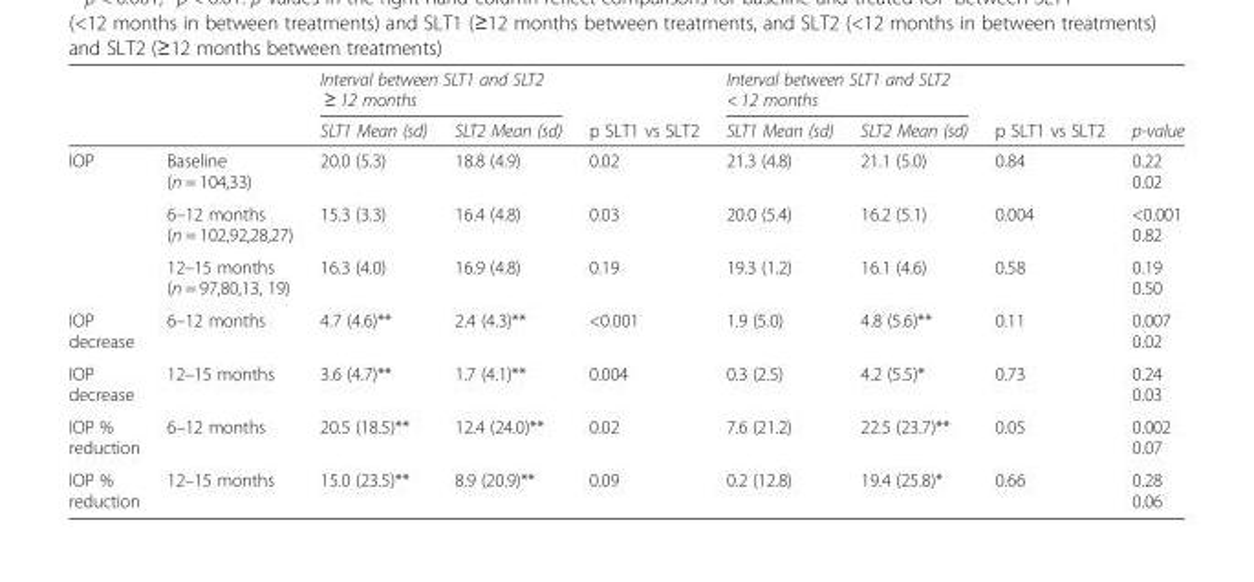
<table><thead><tr><td rowspan="2"></td><td rowspan="2"></td><td colspan="2">Interval between SLT1 and SLT2 ≥ 12 months</td><td rowspan="2">p SLT1 vs SLT2</td><td colspan="2">Interval between SLT1 and SLT2 &lt; 12 months</td><td rowspan="2">p SLT1 vs SLT2</td><td rowspan="2">p-value</td></tr><tr><td>SLT1 Mean (sd)</td><td>SLT2 Mean (sd)</td><td>SLT1 Mean (sd)</td><td>SLT2 Mean (sd)</td></tr></thead><tbody><tr><td rowspan="3">IOP</td><td>Baseline (n = 104,33)</td><td>20.0 (5.3)</td><td>18.8 (4.9)</td><td>0.02</td><td>21.3 (4.8)</td><td>21.1 (5.0)</td><td>0.84</td><td>0.22 0.02</td></tr><tr><td>6–12 months (n = 102,92,28,27)</td><td>15.3 (3.3)</td><td>16.4 (4.8)</td><td>0.03</td><td>20.0 (5.4)</td><td>16.2 (5.1)</td><td>0.004</td><td>&lt;0.001 0.82</td></tr><tr><td>12–15 months (n = 97,80,13, 19)</td><td>16.3 (4.0)</td><td>16.9 (4.8)</td><td>0.19</td><td>19.3 (1.2)</td><td>16.1 (4.6)</td><td>0.58</td><td>0.19 0.50</td></tr><tr><td>IOP decrease</td><td>6–12 months</td><td>4.7 (4.6)**</td><td>2.4 (4.3)**</td><td>&lt;0.001</td><td>1.9 (5.0)</td><td>4.8 (5.6)**</td><td>0.11</td><td>0.007 0.02</td></tr><tr><td>IOP decrease</td><td>12–15 months</td><td>3.6 (4.7)**</td><td>1.7 (4.1)**</td><td>0.004</td><td>0.3 (2.5)</td><td>4.2 (5.5)*</td><td>0.73</td><td>0.24 0.03</td></tr><tr><td>IOP % reduction</td><td>6–12 months</td><td>20.5 (18.5)**</td><td>12.4 (24.0)**</td><td>0.02</td><td>7.6 (21.2)</td><td>22.5 (23.7)**</td><td>0.05</td><td>0.002 0.07</td></tr><tr><td>IOP % reduction</td><td>12–15 months</td><td>15.0 (23.5)**</td><td>8.9 (20.9)**</td><td>0.09</td><td>0.2 (12.8)</td><td>19.4 (25.8)*</td><td>0.66</td><td>0.28 0.06</td></tr></tbody></table>